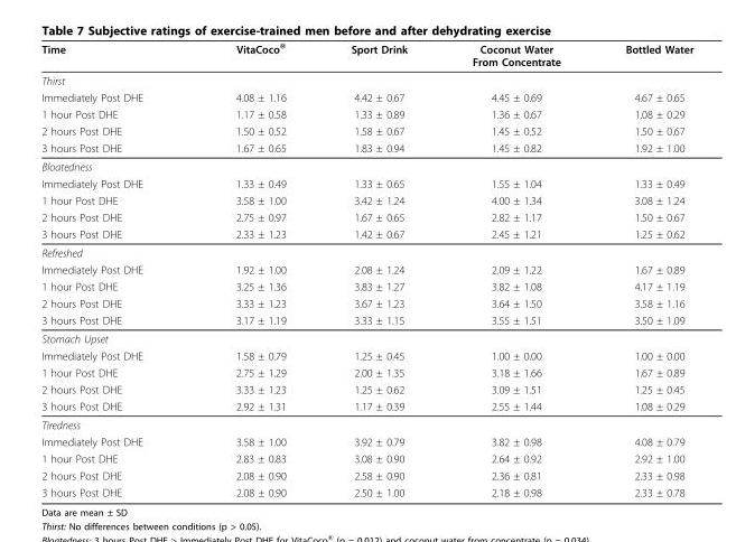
<table><thead><tr><td>Time</td><td>VitaCoco<sup>®</sup></td><td>Sport Drink</td><td>Coconut Water From Concentrate</td><td>Bottled Water</td></tr></thead><tbody><tr><td colspan="5">Thirst</td></tr><tr><td>Immediately Post DHE</td><td>4.08 ± 1.16</td><td>4.42 ± 0.67</td><td>4.45 ± 0.69</td><td>4.67 ± 0.65</td></tr><tr><td>1 hour Post DHE</td><td>1.17 ± 0.58</td><td>1.33 ± 0.89</td><td>1.36 ± 0.67</td><td>1.08 ± 0.29</td></tr><tr><td>2 hours Post DHE</td><td>1.50 ± 0.52</td><td>1.58 ± 0.67</td><td>1.45 ± 0.52</td><td>1.50 ± 0.67</td></tr><tr><td>3 hours Post DHE</td><td>1.67 ± 0.65</td><td>1.83 ± 0.94</td><td>1.45 ± 0.82</td><td>1.92 ± 1.00</td></tr><tr><td colspan="5">Bloatedness</td></tr><tr><td>Immediately Post DHE</td><td>1.33 ± 0.49</td><td>1.33 ± 0.65</td><td>1.55 ± 1.04</td><td>1.33 ± 0.49</td></tr><tr><td>1 hour Post DHE</td><td>3.58 ± 1.00</td><td>3.42 ± 1.24</td><td>4.00 ± 1.34</td><td>3.08 ± 1.24</td></tr><tr><td>2 hours Post DHE</td><td>2.75 ± 0.97</td><td>1.67 ± 0.65</td><td>2.82 ± 1.17</td><td>1.50 ± 0.67</td></tr><tr><td>3 hours Post DHE</td><td>2.33 ± 1.23</td><td>1.42 ± 0.67</td><td>2.45 ± 1.21</td><td>1.25 ± 0.62</td></tr><tr><td colspan="5">Refreshed</td></tr><tr><td>Immediately Post DHE</td><td>1.92 ± 1.00</td><td>2.08 ± 1.24</td><td>2.09 ± 1.22</td><td>1.67 ± 0.89</td></tr><tr><td>1 hour Post DHE</td><td>3.25 ± 1.36</td><td>3.83 ± 1.27</td><td>3.82 ± 1.08</td><td>4.17 ± 1.19</td></tr><tr><td>2 hours Post DHE</td><td>3.33 ± 1.23</td><td>3.67 ± 1.23</td><td>3.64 ± 1.50</td><td>3.58 ± 1.16</td></tr><tr><td>3 hours Post DHE</td><td>3.17 ± 1.19</td><td>3.33 ± 1.15</td><td>3.55 ± 1.51</td><td>3.50 ± 1.09</td></tr><tr><td colspan="5">Stomach Upset</td></tr><tr><td>Immediately Post DHE</td><td>1.58 ± 0.79</td><td>1.25 ± 0.45</td><td>1.00 ± 0.00</td><td>1.00 ± 0.00</td></tr><tr><td>1 hour Post DHE</td><td>2.75 ± 1.29</td><td>2.00 ± 1.35</td><td>3.18 ± 1.66</td><td>1.67 ± 0.89</td></tr><tr><td>2 hours Post DHE</td><td>3.33 ± 1.23</td><td>1.25 ± 0.62</td><td>3.09 ± 1.51</td><td>1.25 ± 0.45</td></tr><tr><td>3 hours Post DHE</td><td>2.92 ± 1.31</td><td>1.17 ± 0.39</td><td>2.55 ± 1.44</td><td>1.08 ± 0.29</td></tr><tr><td colspan="5">Tiredness</td></tr><tr><td>Immediately Post DHE</td><td>3.58 ± 1.00</td><td>3.92 ± 0.79</td><td>3.82 ± 0.98</td><td>4.08 ± 0.79</td></tr><tr><td>1 hour Post DHE</td><td>2.83 ± 0.83</td><td>3.08 ± 0.90</td><td>2.64 ± 0.92</td><td>2.92 ± 1.00</td></tr><tr><td>2 hours Post DHE</td><td>2.08 ± 0.90</td><td>2.58 ± 0.90</td><td>2.36 ± 0.81</td><td>2.33 ± 0.98</td></tr><tr><td>3 hours Post DHE</td><td>2.08 ± 0.90</td><td>2.50 ± 1.00</td><td>2.18 ± 0.98</td><td>2.33 ± 0.78</td></tr></tbody></table>